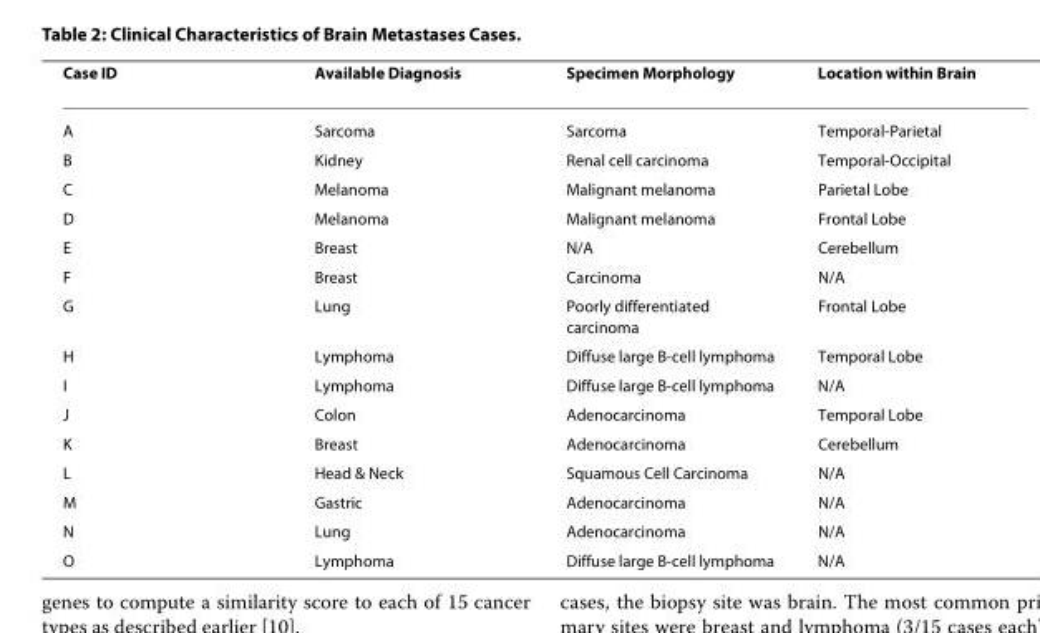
<table><thead><tr><td>Case ID</td><td>Available Diagnosis</td><td>Specimen Morphology</td><td>Location within Brain</td></tr></thead><tbody><tr><td>A</td><td>Sarcoma</td><td>Sarcoma</td><td>Temporal-Parietal</td></tr><tr><td>B</td><td>Kidney</td><td>Renal cell carcinoma</td><td>Temporal-Occipital</td></tr><tr><td>C</td><td>Melanoma</td><td>Malignant melanoma</td><td>Parietal Lobe</td></tr><tr><td>D</td><td>Melanoma</td><td>Malignant melanoma</td><td>Frontal Lobe</td></tr><tr><td>E</td><td>Breast</td><td>N/A</td><td>Cerebellum</td></tr><tr><td>F</td><td>Breast</td><td>Carcinoma</td><td>N/A</td></tr><tr><td>G</td><td>Lung</td><td>Poorly differentiated carcinoma</td><td>Frontal Lobe</td></tr><tr><td>H</td><td>Lymphoma</td><td>Diffuse large B-cell lymphoma</td><td>Temporal Lobe</td></tr><tr><td>I</td><td>Lymphoma</td><td>Diffuse large B-cell lymphoma</td><td>N/A</td></tr><tr><td>J</td><td>Colon</td><td>Adenocarcinoma</td><td>Temporal Lobe</td></tr><tr><td>K</td><td>Breast</td><td>Adenocarcinoma</td><td>Cerebellum</td></tr><tr><td>L</td><td>Head &amp; Neck</td><td>Squamous Cell Carcinoma</td><td>N/A</td></tr><tr><td>M</td><td>Gastric</td><td>Adenocarcinoma</td><td>N/A</td></tr><tr><td>N</td><td>Lung</td><td>Adenocarcinoma</td><td>N/A</td></tr><tr><td>O</td><td>Lymphoma</td><td>Diffuse large B-cell lymphoma</td><td>N/A</td></tr></tbody></table>